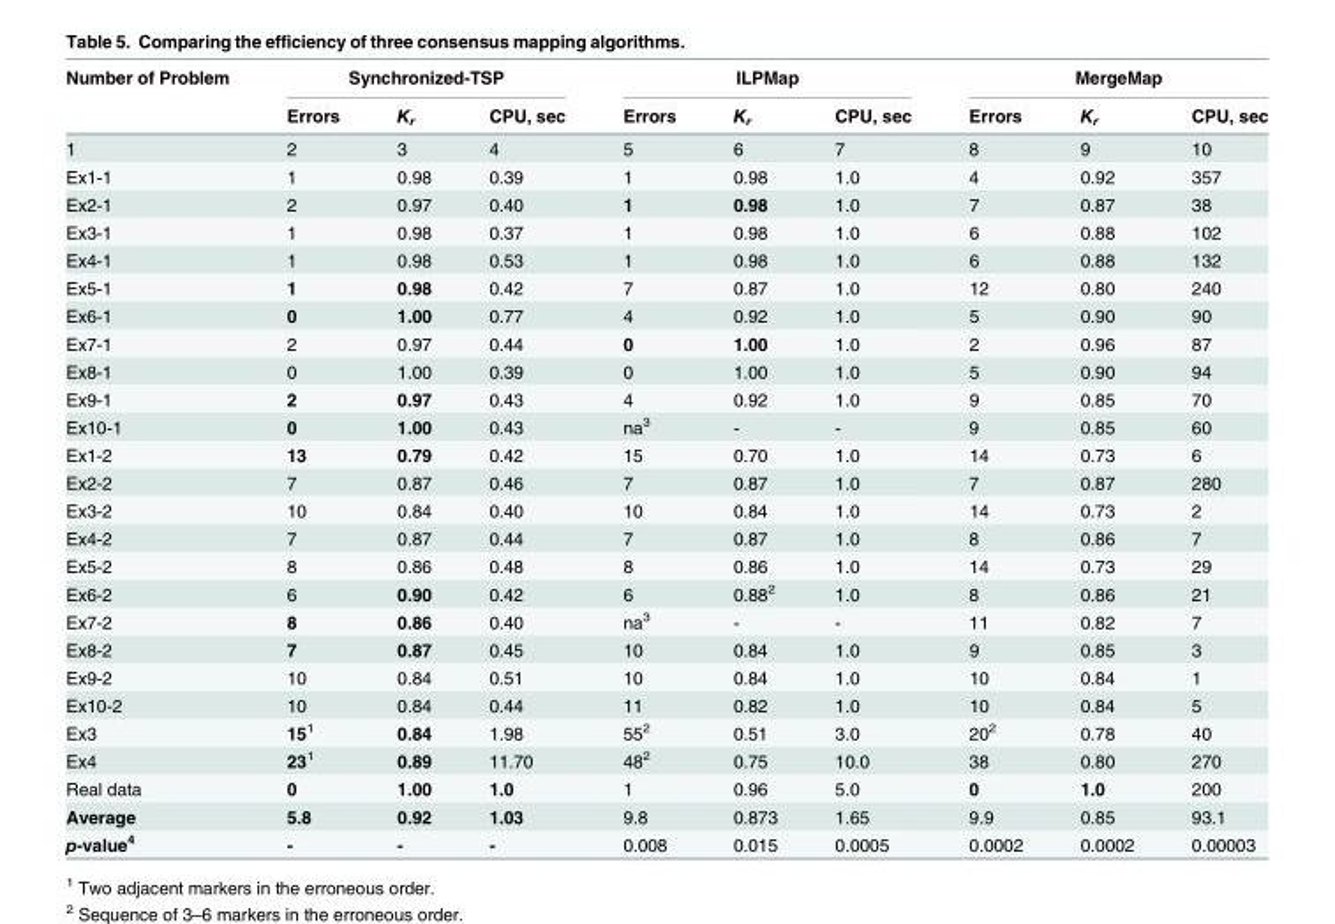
<table><thead><tr><td rowspan="2">Number of Problem</td><td colspan="3">Synchronized-TSP</td><td colspan="3">ILPMap</td><td colspan="3">MergeMap</td></tr><tr><td>Errors</td><td>K<sub>r</sub></td><td>CPU, sec</td><td>Errors</td><td>K<sub>r</sub></td><td>CPU, sec</td><td>Errors</td><td>K<sub>r</sub></td><td>CPU, sec</td></tr></thead><tbody><tr><td>1</td><td>2</td><td>3</td><td>4</td><td>5</td><td>6</td><td>7</td><td>8</td><td>9</td><td>10</td></tr><tr><td>Ex1-1</td><td>1</td><td>0.98</td><td>0.39</td><td>1</td><td>0.98</td><td>1.0</td><td>4</td><td>0.92</td><td>357</td></tr><tr><td>Ex2-1</td><td>2</td><td>0.97</td><td>0.40</td><td>1</td><td>0.98</td><td>1.0</td><td>7</td><td>0.87</td><td>38</td></tr><tr><td>Ex3-1</td><td>1</td><td>0.98</td><td>0.37</td><td>1</td><td>0.98</td><td>1.0</td><td>6</td><td>0.88</td><td>102</td></tr><tr><td>Ex4-1</td><td>1</td><td>0.98</td><td>0.53</td><td>1</td><td>0.98</td><td>1.0</td><td>6</td><td>0.88</td><td>132</td></tr><tr><td>Ex5-1</td><td>1</td><td>0.98</td><td>0.42</td><td>7</td><td>0.87</td><td>1.0</td><td>12</td><td>0.80</td><td>240</td></tr><tr><td>Ex6-1</td><td>0</td><td>1.00</td><td>0.77</td><td>4</td><td>0.92</td><td>1.0</td><td>5</td><td>0.90</td><td>90</td></tr><tr><td>Ex7-1</td><td>2</td><td>0.97</td><td>0.44</td><td>0</td><td>1.00</td><td>1.0</td><td>2</td><td>0.96</td><td>87</td></tr><tr><td>Ex8-1</td><td>0</td><td>1.00</td><td>0.39</td><td>0</td><td>1.00</td><td>1.0</td><td>5</td><td>0.90</td><td>94</td></tr><tr><td>Ex9-1</td><td>2</td><td>0.97</td><td>0.43</td><td>4</td><td>0.92</td><td>1.0</td><td>9</td><td>0.85</td><td>70</td></tr><tr><td>Ex10-1</td><td>0</td><td>1.00</td><td>0.43</td><td>na<sup>3</sup></td><td>-</td><td>-</td><td>9</td><td>0.85</td><td>60</td></tr><tr><td>Ex1-2</td><td>13</td><td>0.79</td><td>0.42</td><td>15</td><td>0.70</td><td>1.0</td><td>14</td><td>0.73</td><td>6</td></tr><tr><td>Ex2-2</td><td>7</td><td>0.87</td><td>0.46</td><td>7</td><td>0.87</td><td>1.0</td><td>7</td><td>0.87</td><td>280</td></tr><tr><td>Ex3-2</td><td>10</td><td>0.84</td><td>0.40</td><td>10</td><td>0.84</td><td>1.0</td><td>14</td><td>0.73</td><td>2</td></tr><tr><td>Ex4-2</td><td>7</td><td>0.87</td><td>0.44</td><td>7</td><td>0.87</td><td>1.0</td><td>8</td><td>0.86</td><td>7</td></tr><tr><td>Ex5-2</td><td>8</td><td>0.86</td><td>0.48</td><td>8</td><td>0.86</td><td>1.0</td><td>14</td><td>0.73</td><td>29</td></tr><tr><td>Ex6-2</td><td>6</td><td>0.90</td><td>0.42</td><td>6</td><td>0.88<sup>2</sup></td><td>1.0</td><td>8</td><td>0.86</td><td>21</td></tr><tr><td>Ex7-2</td><td>8</td><td>0.86</td><td>0.40</td><td>na<sup>3</sup></td><td>-</td><td>-</td><td>11</td><td>0.82</td><td>7</td></tr><tr><td>Ex8-2</td><td>7</td><td>0.87</td><td>0.45</td><td>10</td><td>0.84</td><td>1.0</td><td>9</td><td>0.85</td><td>3</td></tr><tr><td>Ex9-2</td><td>10</td><td>0.84</td><td>0.51</td><td>10</td><td>0.84</td><td>1.0</td><td>10</td><td>0.84</td><td>1</td></tr><tr><td>Ex10-2</td><td>10</td><td>0.84</td><td>0.44</td><td>11</td><td>0.82</td><td>1.0</td><td>10</td><td>0.84</td><td>5</td></tr><tr><td>Ex3</td><td>15<sup>1</sup></td><td>0.84</td><td>1.98</td><td>55<sup>2</sup></td><td>0.51</td><td>3.0</td><td>20<sup>2</sup></td><td>0.78</td><td>40</td></tr><tr><td>Ex4</td><td>23<sup>1</sup></td><td>0.89</td><td>11.70</td><td>48<sup>2</sup></td><td>0.75</td><td>10.0</td><td>38</td><td>0.80</td><td>270</td></tr><tr><td>Real data</td><td>0</td><td>1.00</td><td>1.0</td><td>1</td><td>0.96</td><td>5.0</td><td>0</td><td>1.0</td><td>200</td></tr><tr><td>Average</td><td>5.8</td><td>0.92</td><td>1.03</td><td>9.8</td><td>0.873</td><td>1.65</td><td>9.9</td><td>0.85</td><td>93.1</td></tr><tr><td>p-value<sup>4</sup></td><td>-</td><td>-</td><td>-</td><td>0.008</td><td>0.015</td><td>0.0005</td><td>0.0002</td><td>0.0002</td><td>0.00003</td></tr></tbody></table>